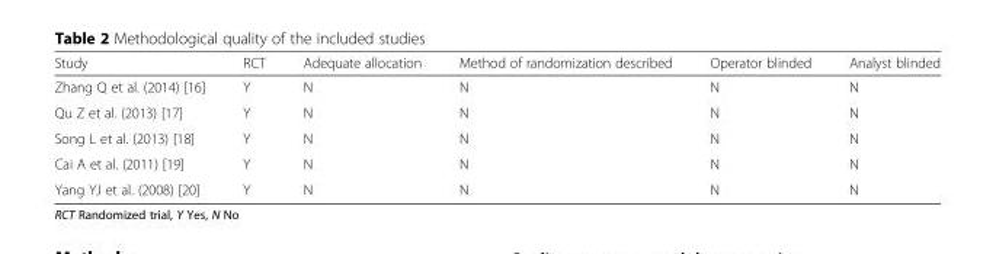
<table><thead><tr><td>Study</td><td>RCT</td><td>Adequate allocation</td><td>Method of randomization described</td><td>Operator blinded</td><td>Analyst blinded</td></tr></thead><tbody><tr><td>Zhang Q et al. (2014) [16]</td><td>Y</td><td>N</td><td>N</td><td>N</td><td>N</td></tr><tr><td>Qu Z et al. (2013) [17]</td><td>Y</td><td>N</td><td>N</td><td>N</td><td>N</td></tr><tr><td>Song L et al. (2013) [18]</td><td>Y</td><td>N</td><td>N</td><td>N</td><td>N</td></tr><tr><td>Cai A et al. (2011) [19]</td><td>Y</td><td>N</td><td>N</td><td>N</td><td>N</td></tr><tr><td>Yang YJ et al. (2008) [20]</td><td>Y</td><td>N</td><td>N</td><td>N</td><td>N</td></tr></tbody></table>